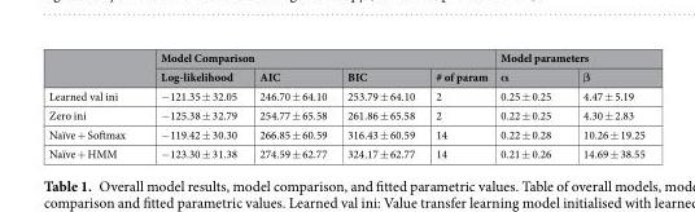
<table><thead><tr><td rowspan="2"></td><td colspan="4">Model Comparison</td><td colspan="2">Model parameters</td></tr><tr><td>Log-likelihood</td><td>AIC</td><td>BIC</td><td># of param</td><td>α</td><td>β</td></tr></thead><tbody><tr><td>Learned val ini</td><td>−121.35 ± 32.05</td><td>246.70 ± 64.10</td><td>253.79 ± 64.10</td><td>2</td><td>0.25 ± 0.25</td><td>4.47 ± 5.19</td></tr><tr><td>Zero ini</td><td>−125.38 ± 32.79</td><td>254.77 ± 65.58</td><td>261.86 ± 65.58</td><td>2</td><td>0.22 ± 0.25</td><td>4.30 ± 2.83</td></tr><tr><td>Naïve + Softmax</td><td>−119.42 ± 30.30</td><td>266.85 ± 60.59</td><td>316.43 ± 60.59</td><td>14</td><td>0.22 ± 0.28</td><td>10.26 ± 19.25</td></tr><tr><td>Naïve + HMM</td><td>−123.30 ± 31.38</td><td>274.59 ± 62.77</td><td>324.17 ± 62.77</td><td>14</td><td>0.21 ± 0.26</td><td>14.69 ± 38.55</td></tr></tbody></table>